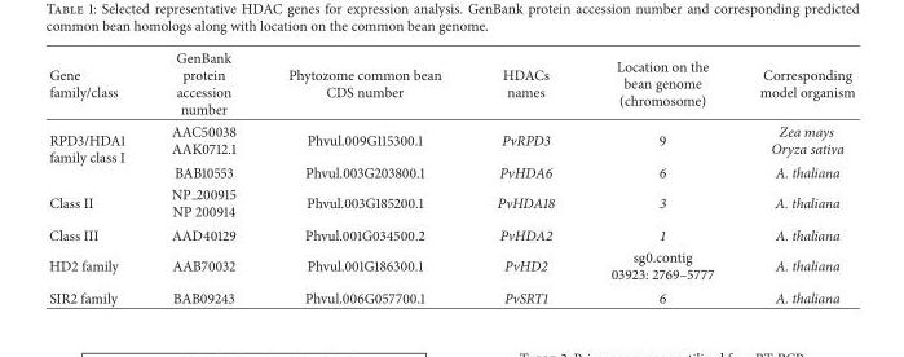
<table><thead><tr><td>Gene family/class</td><td>GenBank protein accession number</td><td>Phytozome common bean CDS number</td><td>HDACs names</td><td>Location on the bean genome (chromosome)</td><td>Corresponding model organism</td></tr></thead><tbody><tr><td rowspan="2">RPD3/HDA1 family class I</td><td>AAC50038 AAK0712.1</td><td>Phvul.009G115300.1</td><td>PvRPD3</td><td>9</td><td>Zea mays Oryza sativa</td></tr><tr><td>BAB10553</td><td>Phvul.003G203800.1</td><td>PvHDA6</td><td>6</td><td>A. thaliana</td></tr><tr><td>Class II</td><td>NP 200915 NP 200914</td><td>Phvul.003G185200.1</td><td>PvHDA18</td><td>3</td><td>A. thaliana</td></tr><tr><td>Class III</td><td>AAD40129</td><td>Phvul.001G034500.2</td><td>PvHDA2</td><td>1</td><td>A. thaliana</td></tr><tr><td>HD2 family</td><td>AAB70032</td><td>Phvul.001G186300.1</td><td>PvHD2</td><td>sg0.contig 03923: 2769–5777</td><td>A. thaliana</td></tr><tr><td>SIR2 family</td><td>BAB09243</td><td>Phvul.006G057700.1</td><td>PvSRT1</td><td>6</td><td>A. thaliana</td></tr></tbody></table>